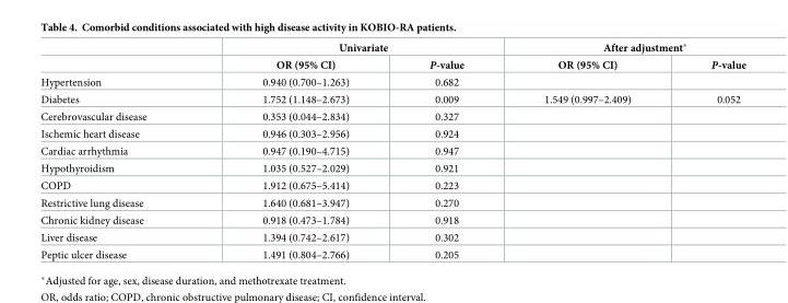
<table><thead><tr><td rowspan="2"></td><td colspan="2">Univariate</td><td colspan="2">After adjustment*</td></tr><tr><td>OR (95% CI)</td><td>P-value</td><td>OR (95% CI)</td><td>P-value</td></tr></thead><tbody><tr><td>Hypertension</td><td>0.940 (0.700–1.263)</td><td>0.682</td><td></td><td></td></tr><tr><td>Diabetes</td><td>1.752 (1.148–2.673)</td><td>0.009</td><td>1.549 (0.997–2.409)</td><td>0.052</td></tr><tr><td>Cerebrovascular disease</td><td>0.353 (0.044–2.834)</td><td>0.327</td><td></td><td></td></tr><tr><td>Ischemic heart disease</td><td>0.946 (0.303–2.956)</td><td>0.924</td><td></td><td></td></tr><tr><td>Cardiac arrhythmia</td><td>0.947 (0.190–4.715)</td><td>0.947</td><td></td><td></td></tr><tr><td>Hypothyroidism</td><td>1.035 (0.527–2.029)</td><td>0.921</td><td></td><td></td></tr><tr><td>COPD</td><td>1.912 (0.675–5.414)</td><td>0.223</td><td></td><td></td></tr><tr><td>Restrictive lung disease</td><td>1.640 (0.681–3.947)</td><td>0.270</td><td></td><td></td></tr><tr><td>Chronic kidney disease</td><td>0.918 (0.473–1.784)</td><td>0.918</td><td></td><td></td></tr><tr><td>Liver disease</td><td>1.394 (0.742–2.617)</td><td>0.302</td><td></td><td></td></tr><tr><td>Peptic ulcer disease</td><td>1.491 (0.804–2.766)</td><td>0.205</td><td></td><td></td></tr></tbody></table>